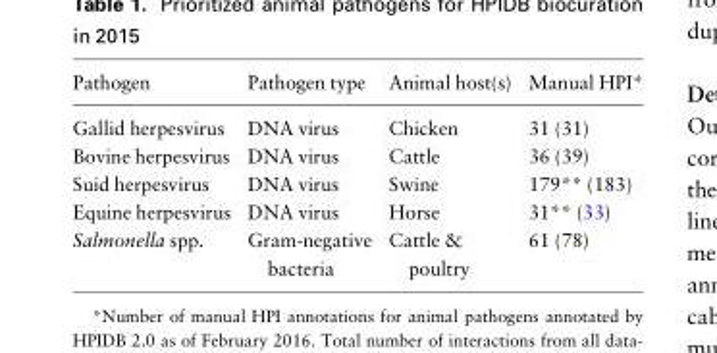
<table><thead><tr><td>Pathogen</td><td>Pathogen type</td><td>Animal host(s)</td><td>Manual HPI*</td></tr></thead><tbody><tr><td>Gallid herpesvirus</td><td>DNA virus</td><td>Chicken</td><td>31 (31)</td></tr><tr><td>Bovine herpesvirus</td><td>DNA virus</td><td>Cattle</td><td>36 (39)</td></tr><tr><td>Suid herpesvirus</td><td>DNA virus</td><td>Swine</td><td>179** (183)</td></tr><tr><td>Equine herpesvirus</td><td>DNA virus</td><td>Horse</td><td>31** (33)</td></tr><tr><td>Salmonella spp.</td><td>Gram-negative bacteria</td><td>Cattle &amp; poultry</td><td>61 (78)</td></tr></tbody></table>